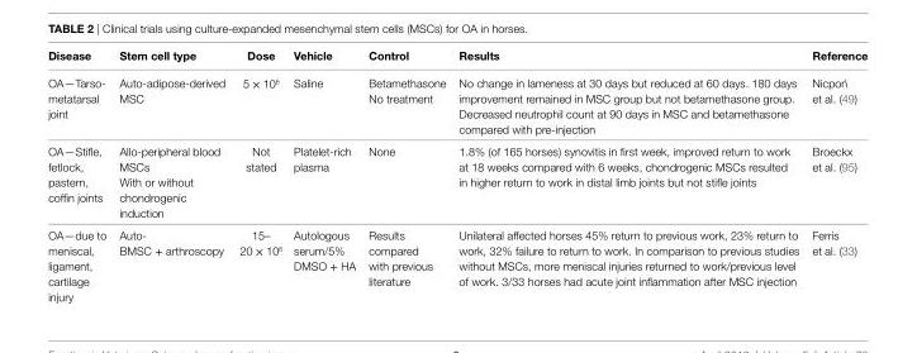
<table><thead><tr><td>Disease</td><td>Stem cell type</td><td>Dose</td><td>vehicle</td><td>Control</td><td>Results</td><td>Reference</td></tr></thead><tbody><tr><td>OA—Tarso- metatarsal joint</td><td>Auto-adipose-derived MSC</td><td>5 × 10<sup>6</sup></td><td>Saline</td><td>Betamethasone No treatment</td><td>No change in lameness at 30 days but reduced at 60 days. 180 days improvement remained in MSC group but not betamethasone group. Decreased neutrophil count at 90 days in MSC and betamethasone compared with pre-injection</td><td>Nicpon´ et al. (49)</td></tr><tr><td>OA—Stifle, fetlock, pastern, coffin joints</td><td>Allo-peripheral blood MSCs With or without chondrogenic induction</td><td>Not stated</td><td>Platelet-rich plasma</td><td>None</td><td>1.8% (of 165 horses) synovitis in first week, improved return to work at 18 weeks compared with 6 weeks, chondrogenic MSCs resulted in higher return to work in distal limb joints but not stifle joints</td><td>Broeckx et al. (95)</td></tr><tr><td>OA—due to meniscal, ligament, cartilage injury</td><td>Auto- BMSC + arthroscopy</td><td>15– 20 × 10<sup>6</sup></td><td>Autologous serum/5% DMSO + HA</td><td>Results compared with previous literature</td><td>Unilateral affected horses 45% return to previous work, 23% return to work, 32% failure to return to work. In comparison to previous studies without MSCs, more meniscal injuries returned to work/previous level of work. 3/33 horses had acute joint inflammation after MSC injection</td><td>Ferris et al. (33)</td></tr></tbody></table>